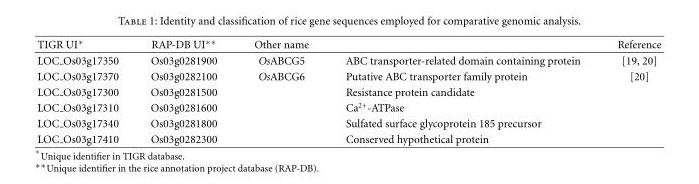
<table><thead><tr><td>TIGR UI∗</td><td>RAP-DB UI∗∗</td><td>Other name</td><td></td><td>Reference</td></tr></thead><tbody><tr><td>LOC Os03g17350</td><td>Os03g0281900</td><td>OsABCG5</td><td>ABC transporter-related domain containing protein</td><td>[19, 20]</td></tr><tr><td>LOC Os03g17370</td><td>Os03g0282100</td><td>OsABCG6</td><td>Putative ABC transporter family protein</td><td>[20]</td></tr><tr><td>LOC Os03g17300</td><td>Os03g0281500</td><td></td><td>Resistance protein candidate</td><td></td></tr><tr><td>LOC Os03g17310</td><td>Os03g0281600</td><td></td><td>Ca<sup>2+</sup>-ATPase</td><td></td></tr><tr><td>LOC Os03g17340</td><td>Os03g0281800</td><td></td><td>Sulfated surface glycoprotein 185 precursor</td><td></td></tr><tr><td>LOC Os03g17410</td><td>Os03g0282300</td><td></td><td>Conserved hypothetical protein</td><td></td></tr></tbody></table>